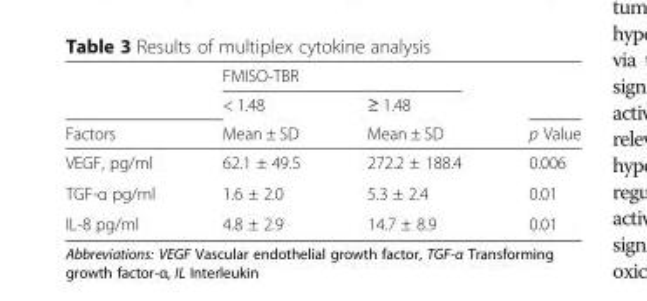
<table><thead><tr><td rowspan="3">Factors</td><td colspan="2">FMISO-TBR</td><td rowspan="3">p Value</td></tr><tr><td rowspan="2">&lt; 1.48 Mean ± SD</td><td rowspan="2">≥ 1.48 Mean ± SD</td></tr><tr></tr></thead><tbody><tr><td>VEGF, pg/ml</td><td>62.1 ± 49.5</td><td>272.2 ± 188.4</td><td>0.006</td></tr><tr><td>TGF-α pg/ml</td><td>1.6 ± 2.0</td><td>5.3 ± 2.4</td><td>0.01</td></tr><tr><td>IL-8 pg/ml</td><td>4.8 ± 2.9</td><td>14.7 ± 8.9</td><td>0.01</td></tr></tbody></table>